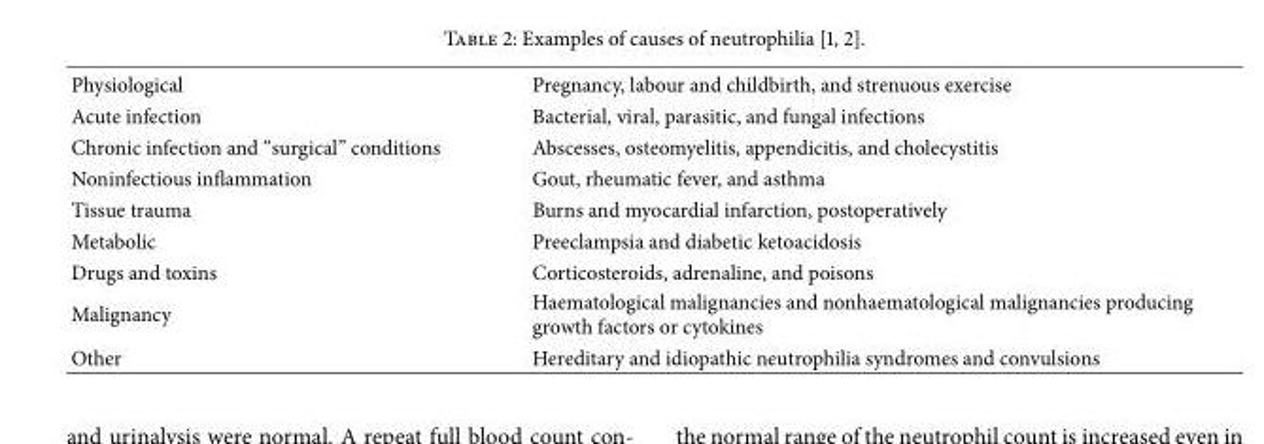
<table><tbody><tr><td>Physiological</td><td>Pregnancy, labour and childbirth, and strenuous exercise</td></tr><tr><td>Acute infection</td><td>Bacterial, viral, parasitic, and fungal infections</td></tr><tr><td>Chronic infection and “surgical” conditions</td><td>Abscesses, osteomyelitis, appendicitis, and cholecystitis</td></tr><tr><td>Noninfectious inflammation</td><td>Gout, rheumatic fever, and asthma</td></tr><tr><td>Tissue trauma</td><td>Burns and myocardial infarction, postoperatively</td></tr><tr><td>Metabolic</td><td>Preeclampsia and diabetic ketoacidosis</td></tr><tr><td>Drugs and toxins</td><td>Corticosteroids, adrenaline, and poisons</td></tr><tr><td>Malignancy</td><td>Haematological malignancies and nonhaematological malignancies producing growth factors or cytokines</td></tr><tr><td>Other</td><td>Hereditary and idiopathic neutrophilia syndromes and convulsions</td></tr></tbody></table>